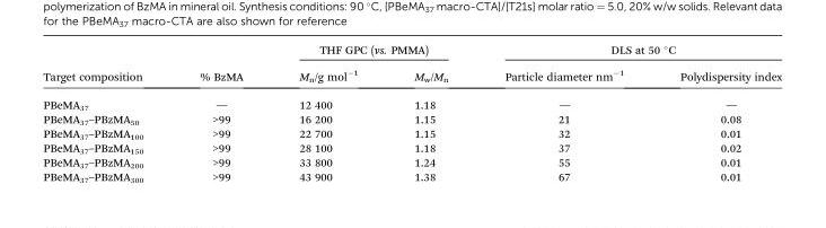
<table><thead><tr><td rowspan="2">Target composition</td><td rowspan="2">% BzMA</td><td colspan="2">THF GPC (vs. PMMA)</td><td colspan="2">DLS at 50 °C</td></tr><tr><td>M<sub>n</sub>/g mol<sup>–1</sup></td><td>M<sub>w</sub>/M<sub>n</sub></td><td>Particle diameter nm<sup>–1</sup></td><td>Polydispersity index</td></tr></thead><tbody><tr><td>PBeMA<sub>37</sub></td><td>—</td><td>12 400</td><td>1.18</td><td>—</td><td>—</td></tr><tr><td>PBeMA<sub>37</sub>–PBzMA<sub>50</sub></td><td>&gt;99</td><td>16 200</td><td>1.15</td><td>21</td><td>0.08</td></tr><tr><td>PBeMA<sub>37</sub>–PBzMA<sub>100</sub></td><td>&gt;99</td><td>22 700</td><td>1.15</td><td>32</td><td>0.01</td></tr><tr><td>PBeMA<sub>37</sub>–PBzMA<sub>150</sub></td><td>&gt;99</td><td>28 100</td><td>1.18</td><td>37</td><td>0.02</td></tr><tr><td>PBeMA<sub>37</sub>–PBzMA<sub>200</sub></td><td>&gt;99</td><td>33 800</td><td>1.24</td><td>55</td><td>0.01</td></tr><tr><td>PBeMA<sub>37</sub>–PBzMA<sub>300</sub></td><td>&gt;99</td><td>43 900</td><td>1.38</td><td>67</td><td>0.01</td></tr></tbody></table>